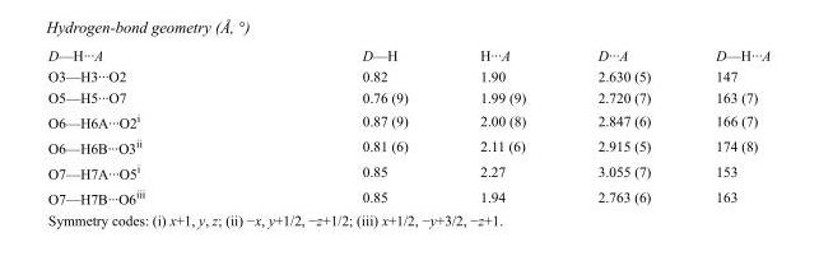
<table><tbody><tr><td>D—H···A</td><td>D—H</td><td>H···A</td><td>D···A</td><td>D—H···A</td></tr><tr><td>O3—H3···O2</td><td>0.82</td><td>1.90</td><td>2.630 (5)</td><td>147</td></tr><tr><td>O5—H5···O7</td><td>0.76 (9)</td><td>1.99 (9)</td><td>2.720 (7)</td><td>163 (7)</td></tr><tr><td>O6—H6A···O2<sup>i</sup></td><td>0.87 (9)</td><td>2.00 (8)</td><td>2.847 (6)</td><td>166 (7)</td></tr><tr><td>O6—H6B···O3<sup>ii</sup></td><td>0.81 (6)</td><td>2.11 (6)</td><td>2.915 (5)</td><td>174 (8)</td></tr><tr><td>O7—H7A···O5<sup>i</sup></td><td>0.85</td><td>2.27</td><td>3.055 (7)</td><td>153</td></tr><tr><td>O7—H7B···O6<sup>iii</sup></td><td>0.85</td><td>1.94</td><td>2.763 (6)</td><td>163</td></tr></tbody></table>